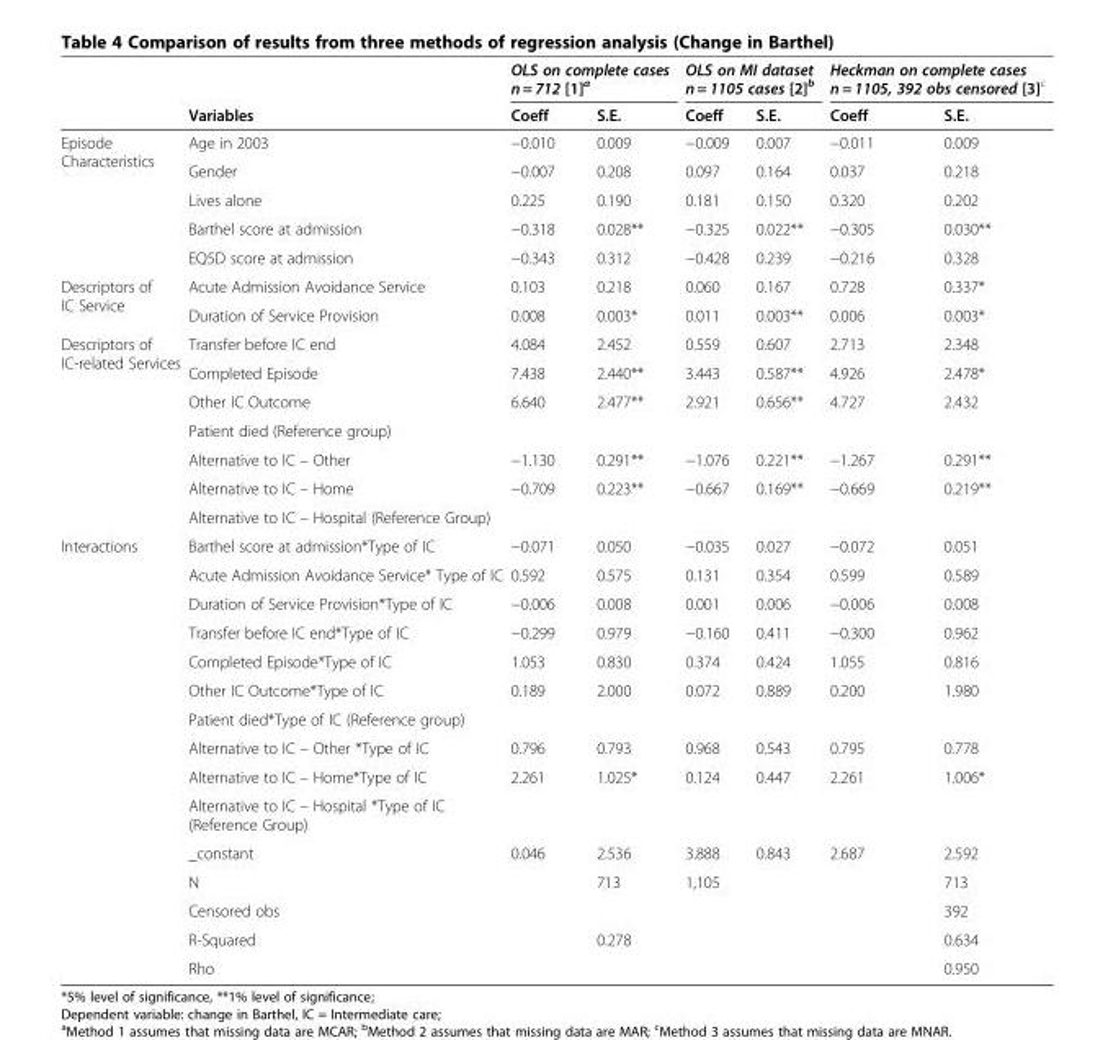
<table><thead><tr><td rowspan="2"></td><td rowspan="2">Variables</td><td colspan="2">OLS on complete cases n = 712 [1]a</td><td colspan="2">OLS on MI dataset n = 1105 cases [2]<sup>b</sup></td><td colspan="2">Heckman on complete cases n = 1105, 392 obs censored [3]c</td></tr><tr><td>Coeff</td><td>S.E.</td><td>Coeff</td><td>S.E.</td><td>Coeff</td><td>S.E.</td></tr></thead><tbody><tr><td rowspan="5">Episode Characteristics</td><td>Age in 2003</td><td>−0.010</td><td>0.009</td><td>−0.009</td><td>0.007</td><td>−0.011</td><td>0.009</td></tr><tr><td>Gender</td><td>−0.007</td><td>0.208</td><td>0.097</td><td>0.164</td><td>0.037</td><td>0.218</td></tr><tr><td>Lives alone</td><td>0.225</td><td>0.190</td><td>0.181</td><td>0.150</td><td>0.320</td><td>0.202</td></tr><tr><td>Barthel score at admission</td><td>−0.318</td><td>0.028**</td><td>−0.325</td><td>0.022**</td><td>−0.305</td><td>0.030**</td></tr><tr><td>EQ5D score at admission</td><td>−0.343</td><td>0.312</td><td>−0.428</td><td>0.239</td><td>−0.216</td><td>0.328</td></tr><tr><td rowspan="2">Descriptors of IC Service</td><td>Acute Admission Avoidance Service</td><td>0.103</td><td>0.218</td><td>0.060</td><td>0.167</td><td>0.728</td><td>0.337*</td></tr><tr><td>Duration of Service Provision</td><td>0.008</td><td>0.003*</td><td>0.011</td><td>0.003**</td><td>0.006</td><td>0.003*</td></tr><tr><td rowspan="7">Descriptors of IC-related Services</td><td>Transfer before IC end</td><td>4.084</td><td>2.452</td><td>0.559</td><td>0.607</td><td>2.713</td><td>2.348</td></tr><tr><td>Completed Episode</td><td>7.438</td><td>2.440**</td><td>3.443</td><td>0.587**</td><td>4.926</td><td>2.478*</td></tr><tr><td>Other IC Outcome</td><td>6.640</td><td>2.477**</td><td>2.921</td><td>0.656**</td><td>4.727</td><td>2.432</td></tr><tr><td>Patient died (Reference group)</td><td></td><td></td><td></td><td></td><td></td><td></td></tr><tr><td>Alternative to IC – Other</td><td>−1.130</td><td>0.291**</td><td>−1.076</td><td>0.221**</td><td>−1.267</td><td>0.291**</td></tr><tr><td>Alternative to IC – Home</td><td>−0.709</td><td>0.223**</td><td>−0.667</td><td>0.169**</td><td>−0.669</td><td>0.219**</td></tr><tr><td>Alternative to IC – Hospital (Reference Group)</td><td></td><td></td><td></td><td></td><td></td><td></td></tr><tr><td rowspan="15">Interactions</td><td>Barthel score at admission*Type of IC</td><td>−0.071</td><td>0.050</td><td>−0.035</td><td>0.027</td><td>−0.072</td><td>0.051</td></tr><tr><td>Acute Admission Avoidance Service* Type of IC</td><td>0.592</td><td>0.575</td><td>0.131</td><td>0.354</td><td>0.599</td><td>0.589</td></tr><tr><td>Duration of Service Provision*Type of IC</td><td>−0.006</td><td>0.008</td><td>0.001</td><td>0.006</td><td>−0.006</td><td>0.008</td></tr><tr><td>Transfer before IC end*Type of IC</td><td>−0.299</td><td>0.979</td><td>−0.160</td><td>0.411</td><td>−0.300</td><td>0.962</td></tr><tr><td>Completed Episode*Type of IC</td><td>1.053</td><td>0.830</td><td>0.374</td><td>0.424</td><td>1.055</td><td>0.816</td></tr><tr><td>Other IC Outcome*Type of IC</td><td>0.189</td><td>2.000</td><td>0.072</td><td>0.889</td><td>0.200</td><td>1.980</td></tr><tr><td>Patient died*Type of IC (Reference group)</td><td></td><td></td><td></td><td></td><td></td><td></td></tr><tr><td>Alternative to IC – Other *Type of IC</td><td>0.796</td><td>0.793</td><td>0.968</td><td>0.543</td><td>0.795</td><td>0.778</td></tr><tr><td>Alternative to IC – Home*Type of IC</td><td>2.261</td><td>1.025*</td><td>0.124</td><td>0.447</td><td>2.261</td><td>1.006*</td></tr><tr><td>Alternative to IC – Hospital *Type of IC (Reference Group)</td><td></td><td></td><td></td><td></td><td></td><td></td></tr><tr><td>_constant</td><td>0.046</td><td>2.536</td><td>3.888</td><td>0.843</td><td>2.687</td><td>2.592</td></tr><tr><td>N</td><td></td><td>713</td><td>1,105</td><td></td><td></td><td>713</td></tr><tr><td>Censored obs</td><td></td><td></td><td></td><td></td><td></td><td>392</td></tr><tr><td>R-Squared</td><td></td><td>0.278</td><td></td><td></td><td></td><td>0.634</td></tr><tr><td>Rho</td><td></td><td></td><td></td><td></td><td></td><td>0.950</td></tr></tbody></table>